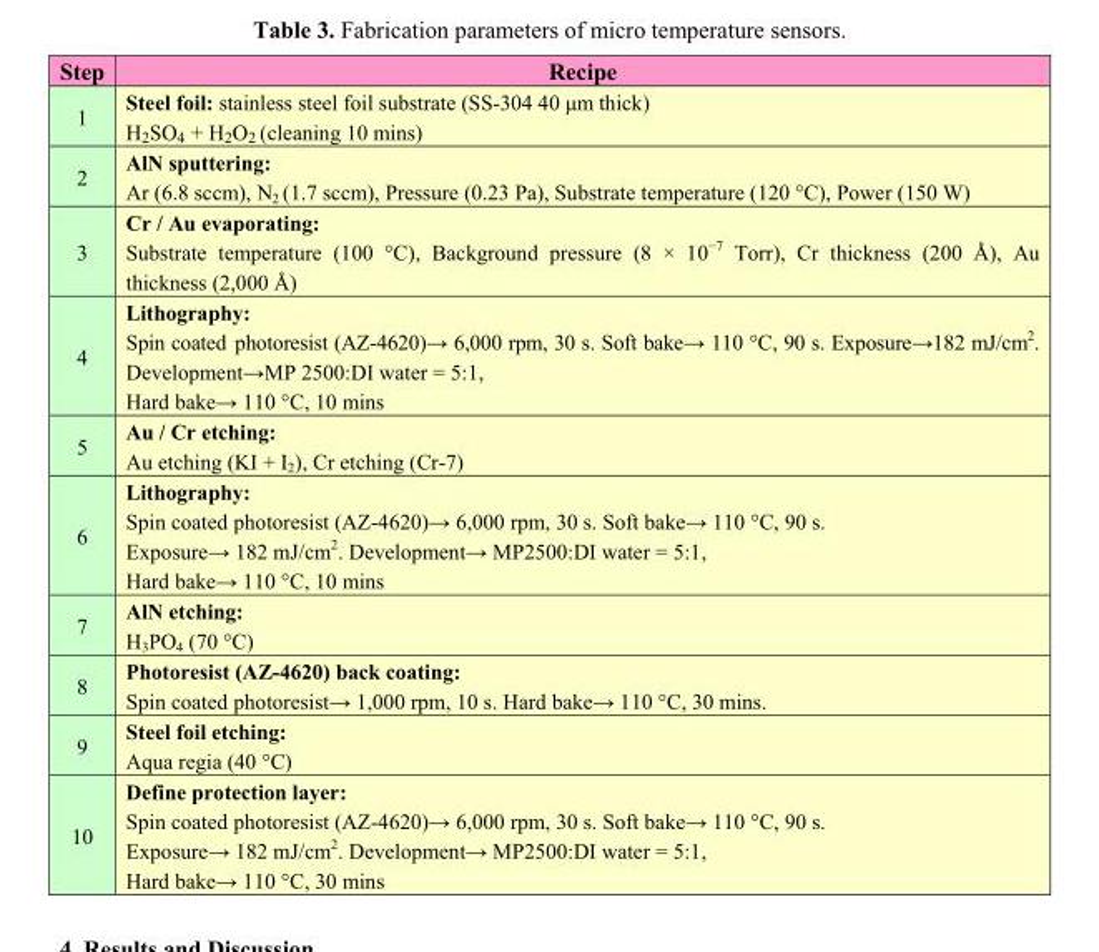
<table><thead><tr><td>Step</td><td>Recipe</td></tr></thead><tbody><tr><td>1</td><td>Steel foil: stainless steel foil substrate (SS-304 40 μm thick) H<sub>2</sub>SO<sub>4</sub> + H<sub>2</sub>O<sub>2</sub> (cleaning 10 mins)</td></tr><tr><td>2</td><td>AlN sputtering: Ar (6.8 sccm), N<sub>2</sub> (1.7 sccm), Pressure (0.23 Pa), Substrate temperature (120 °C), Power (150 W)</td></tr><tr><td>3</td><td>Cr / Au evaporating: Substrate temperature (100 °C), Background pressure (8 × 10<sup>−7</sup> Torr), Cr thickness (200 Å), Au thickness (2,000 Å)</td></tr><tr><td>4</td><td>Lithography: Spin coated photoresist (AZ-4620)→ 6,000 rpm, 30 s. Soft bake→ 110 °C, 90 s. Exposure→182 mJ/cm<sup>2</sup>. Development→MP 2500:DI water = 5:1, Hard bake→ 110 °C, 10 mins</td></tr><tr><td>5</td><td>Au / Cr etching: Au etching (KI + I<sub>2</sub>), Cr etching (Cr-7)</td></tr><tr><td>6</td><td>Lithography: Spin coated photoresist (AZ-4620)→ 6,000 rpm, 30 s. Soft bake→ 110 °C, 90 s. Exposure→ 182 mJ/cm<sup>2</sup>. Development→ MP2500:DI water = 5:1, Hard bake→ 110 °C, 10 mins</td></tr><tr><td>7</td><td>AlN etching: H<sub>3</sub>PO<sub>4</sub> (70 °C)</td></tr><tr><td>8</td><td>Photoresist (AZ-4620) back coating: Spin coated photoresist→ 1,000 rpm, 10 s. Hard bake→ 110 °C, 30 mins.</td></tr><tr><td>9</td><td>Steel foil etching: Aqua regia (40 °C)</td></tr><tr><td>10</td><td>Define protection layer: Spin coated photoresist (AZ-4620)→ 6,000 rpm, 30 s. Soft bake→ 110 °C, 90 s. Exposure→ 182 mJ/cm<sup>2</sup>. Development→ MP2500:DI water = 5:1, Hard bake→ 110 °C, 30 mins</td></tr></tbody></table>